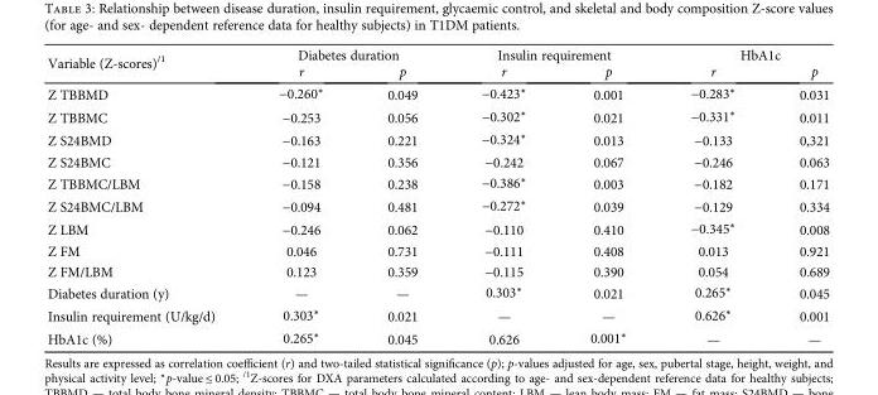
<table><thead><tr><td rowspan="2">Variable (Z-scores)<sup>/1</sup></td><td colspan="2">Diabetes duration</td><td colspan="2">Insulin requirement</td><td colspan="2">HbA1c</td></tr><tr><td>r</td><td>p</td><td>r</td><td>p</td><td>r</td><td>p</td></tr></thead><tbody><tr><td>Z TBBMD</td><td>−0.260∗</td><td>0.049</td><td>−0.423∗</td><td>0.001</td><td>−0.283∗</td><td>0.031</td></tr><tr><td>Z TBBMC</td><td>−0.253</td><td>0.056</td><td>−0.302∗</td><td>0.021</td><td>−0.331∗</td><td>0.011</td></tr><tr><td>Z S24BMD</td><td>−0.163</td><td>0.221</td><td>−0.324∗</td><td>0.013</td><td>−0.133</td><td>0,321</td></tr><tr><td>Z S24BMC</td><td>−0.121</td><td>0.356</td><td>−0.242</td><td>0.067</td><td>−0.246</td><td>0.063</td></tr><tr><td>Z TBBMC/LBM</td><td>−0.158</td><td>0.238</td><td>−0.386∗</td><td>0.003</td><td>−0.182</td><td>0.171</td></tr><tr><td>Z S24BMC/LBM</td><td>−0.094</td><td>0.481</td><td>−0.272∗</td><td>0.039</td><td>−0.129</td><td>0.334</td></tr><tr><td>Z LBM</td><td>−0.246</td><td>0.062</td><td>−0.110</td><td>0.410</td><td>−0.345∗</td><td>0.008</td></tr><tr><td>Z FM</td><td>0.046</td><td>0.731</td><td>−0.111</td><td>0.408</td><td>0.013</td><td>0.921</td></tr><tr><td>Z FM/LBM</td><td>0.123</td><td>0.359</td><td>−0.115</td><td>0.390</td><td>0.054</td><td>0.689</td></tr><tr><td>Diabetes duration (y)</td><td>—</td><td>—</td><td>0.303∗</td><td>0.021</td><td>0.265∗</td><td>0.045</td></tr><tr><td>Insulin requirement (U/kg/d)</td><td>0.303∗</td><td>0.021</td><td>—</td><td>—</td><td>0.626∗</td><td>0.001</td></tr><tr><td>HbA1c (%)</td><td>0.265∗</td><td>0.045</td><td>0.626</td><td>0.001∗</td><td>—</td><td>—</td></tr></tbody></table>